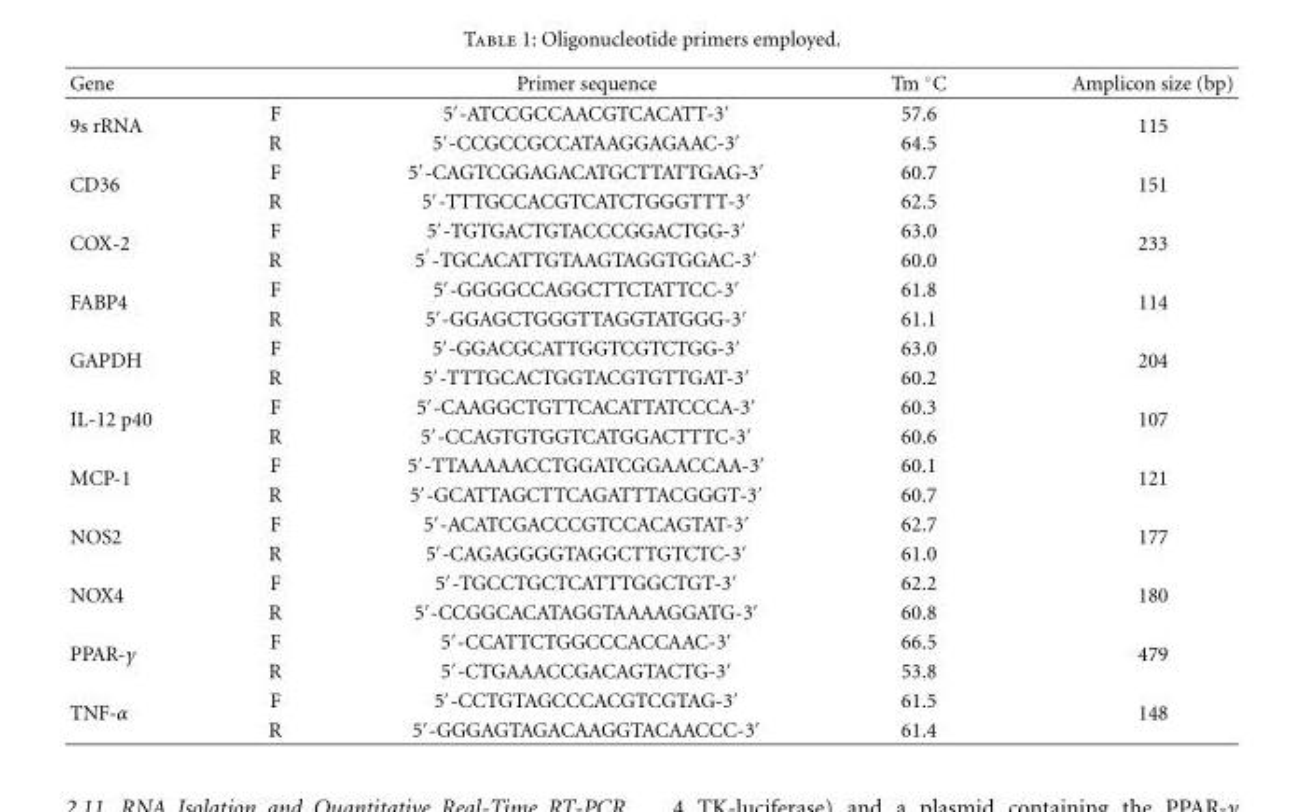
<table><thead><tr><td>Gene</td><td></td><td>Primer sequence</td><td>Tm ◦C</td><td>Amplicon size (bp)</td></tr></thead><tbody><tr><td rowspan="2">9s rRNA</td><td>F</td><td>5<sup>′</sup>-ATCCGCCAACGTCACATT-3<sup>′</sup></td><td>57.6</td><td rowspan="2">115</td></tr><tr><td>R</td><td>5<sup>′</sup>-CCGCCGCCATAAGGAGAAC-3<sup>′</sup></td><td>64.5</td></tr><tr><td rowspan="2">CD36</td><td>F</td><td>5<sup>′</sup>-CAGTCGGAGACATGCTTATTGAG-3<sup>′</sup></td><td>60.7</td><td rowspan="2">151</td></tr><tr><td>R</td><td>5<sup>′</sup>-TTTGCCACGTCATCTGGGTTT-3<sup>′</sup></td><td>62.5</td></tr><tr><td rowspan="2">COX-2</td><td>F</td><td>5<sup>′</sup>-TGTGACTGTACCCGGACTGG-3<sup>′</sup></td><td>63.0</td><td rowspan="2">233</td></tr><tr><td>R</td><td>5 <sup>′</sup>-TGCACATTGTAAGTAGGTGGAC-3<sup>′</sup></td><td>60.0</td></tr><tr><td rowspan="2">FABP4</td><td>F</td><td>5<sup>′</sup>-GGGGCCAGGCTTCTATTCC-3<sup>′</sup></td><td>61.8</td><td rowspan="2">114</td></tr><tr><td>R</td><td>5<sup>′</sup>-GGAGCTGGGTTAGGTATGGG-3<sup>′</sup></td><td>61.1</td></tr><tr><td rowspan="2">GAPDH</td><td>F</td><td>5<sup>′</sup>-GGACGCATTGGTCGTCTGG-3<sup>′</sup></td><td>63.0</td><td rowspan="2">204</td></tr><tr><td>R</td><td>5<sup>′</sup>-TTTGCACTGGTACGTGTTGAT-3<sup>′</sup></td><td>60.2</td></tr><tr><td rowspan="2">IL-12 p40</td><td>F</td><td>5<sup>′</sup>-CAAGGCTGTTCACATTATCCCA-3<sup>′</sup></td><td>60.3</td><td rowspan="2">107</td></tr><tr><td>R</td><td>5<sup>′</sup>-CCAGTGTGGTCATGGACTTTC-3<sup>′</sup></td><td>60.6</td></tr><tr><td rowspan="2">MCP-1</td><td>F</td><td>5<sup>′</sup>-TTAAAAACCTGGATCGGAACCAA-3<sup>′</sup></td><td>60.1</td><td rowspan="2">121</td></tr><tr><td>R</td><td>5<sup>′</sup>-GCATTAGCTTCAGATTTACGGGT-3<sup>′</sup></td><td>60.7</td></tr><tr><td rowspan="2">NOS2</td><td>F</td><td>5<sup>′</sup>-ACATCGACCCGTCCACAGTAT-3<sup>′</sup></td><td>62.7</td><td rowspan="2">177</td></tr><tr><td>R</td><td>5<sup>′</sup>-CAGAGGGGTAGGCTTGTCTC-3<sup>′</sup></td><td>61.0</td></tr><tr><td rowspan="2">NOX4</td><td>F</td><td>5<sup>′</sup>-TGCCTGCTCATTTGGCTGT-3<sup>′</sup></td><td>62.2</td><td rowspan="2">180</td></tr><tr><td>R</td><td>5<sup>′</sup>-CCGGCACATAGGTAAAAGGATG-3<sup>′</sup></td><td>60.8</td></tr><tr><td rowspan="2">PPAR-γ</td><td>F</td><td>5<sup>′</sup>-CCATTCTGGCCCACCAAC-3<sup>′</sup></td><td>66.5</td><td rowspan="2">479</td></tr><tr><td>R</td><td>5<sup>′</sup>-CTGAAACCGACAGTACTG-3<sup>′</sup></td><td>53.8</td></tr><tr><td rowspan="2">TNF-α</td><td>F</td><td>5<sup>′</sup>-CCTGTAGCCCACGTCGTAG-3<sup>′</sup></td><td>61.5</td><td rowspan="2">148</td></tr><tr><td>R</td><td>5<sup>′</sup>-GGGAGTAGACAAGGTACAACCC-3<sup>′</sup></td><td>61.4</td></tr></tbody></table>